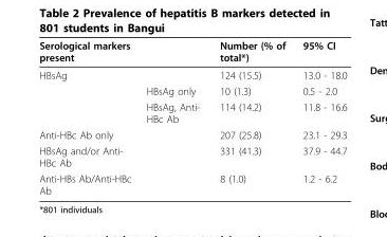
<table><thead><tr><td>Serological markers present</td><td></td><td>Number (% of total*)</td><td>95% CI</td></tr></thead><tbody><tr><td rowspan="3">HBsAg</td><td></td><td>124 (15.5)</td><td>13.0 - 18.0</td></tr><tr><td>HBsAg only</td><td>10 (1.3)</td><td>0.5 - 2.0</td></tr><tr><td>HBsAg, Anti- HBc Ab</td><td>114 (14.2)</td><td>11.8 - 16.6</td></tr><tr><td>Anti-HBc Ab only</td><td></td><td>207 (25.8)</td><td>23.1 - 29.3</td></tr><tr><td>HBsAg and/or Anti- HBc Ab</td><td></td><td>331 (41.3)</td><td>37.9 - 44.7</td></tr><tr><td>Anti-HBs Ab/Anti-HBc Ab</td><td></td><td>8 (1.0)</td><td>1.2 - 6.2</td></tr></tbody></table>